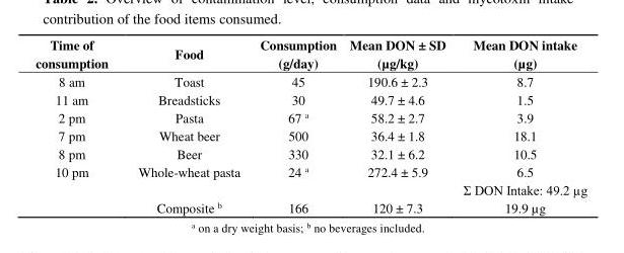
<table><thead><tr><td>Time of consumption</td><td>Food</td><td>Consumption (g/day)</td><td>Mean DON ± SD (µg/kg)</td><td>Mean DON intake (µg)</td></tr></thead><tbody><tr><td>8 am</td><td>Toast</td><td>45</td><td>190.6 ± 2.3</td><td>8.7</td></tr><tr><td>11 am</td><td>Breadsticks</td><td>30</td><td>49.7 ± 4.6</td><td>1.5</td></tr><tr><td>2 pm</td><td>Pasta</td><td>67 <sup>a</sup></td><td>58.2 ± 2.7</td><td>3.9</td></tr><tr><td>7 pm</td><td>Wheat beer</td><td>500</td><td>36.4 ± 1.8</td><td>18.1</td></tr><tr><td>8 pm</td><td>Beer</td><td>330</td><td>32.1 ± 6.2</td><td>10.5</td></tr><tr><td rowspan="3">10 pm</td><td>Whole-wheat pasta</td><td>24 <sup>a</sup></td><td>272.4 ± 5.9</td><td>6.5</td></tr><tr><td></td><td></td><td></td><td>Σ DON Intake: 49.2 µg</td></tr><tr><td>Composite <sup>b</sup></td><td>166</td><td>120 ± 7.3</td><td>19.9 µg</td></tr></tbody></table>